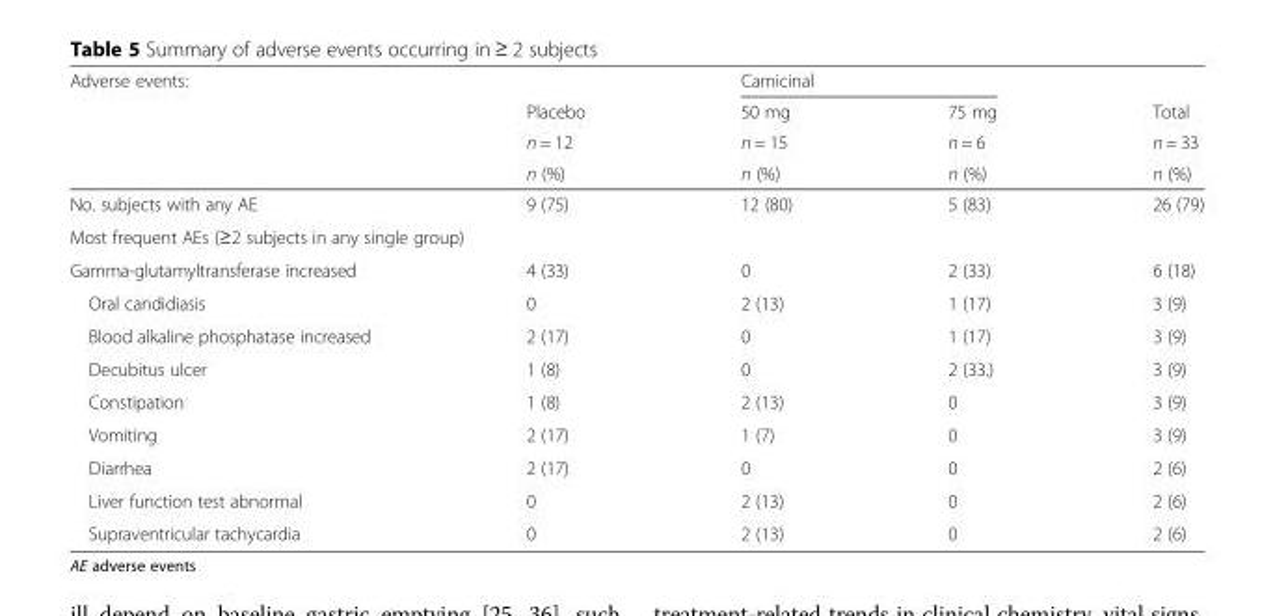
<table><thead><tr><td rowspan="4">Adverse events:</td><td rowspan="4">Placebo n = 12 n (%)</td><td colspan="2">Camicinal</td><td rowspan="4">Total n = 33 n (%)</td></tr><tr><td rowspan="3">50 mg n = 15 n (%)</td><td rowspan="3">75 mg n = 6 n (%)</td></tr><tr></tr><tr></tr></thead><tbody><tr><td>No. subjects with any AE</td><td>9 (75)</td><td>12 (80)</td><td>5 (83)</td><td>26 (79)</td></tr><tr><td colspan="5">Most frequent AEs (≥2 subjects in any single group)</td></tr><tr><td>Gamma-glutamyltransferase increased</td><td>4 (33)</td><td>0</td><td>2 (33)</td><td>6 (18)</td></tr><tr><td>Oral candidiasis</td><td>0</td><td>2 (13)</td><td>1 (17)</td><td>3 (9)</td></tr><tr><td>Blood alkaline phosphatase increased</td><td>2 (17)</td><td>0</td><td>1 (17)</td><td>3 (9)</td></tr><tr><td>Decubitus ulcer</td><td>1 (8)</td><td>0</td><td>2 (33.)</td><td>3 (9)</td></tr><tr><td>Constipation</td><td>1 (8)</td><td>2 (13)</td><td>0</td><td>3 (9)</td></tr><tr><td>Vomiting</td><td>2 (17)</td><td>1 (7)</td><td>0</td><td>3 (9)</td></tr><tr><td>Diarrhea</td><td>2 (17)</td><td>0</td><td>0</td><td>2 (6)</td></tr><tr><td>Liver function test abnormal</td><td>0</td><td>2 (13)</td><td>0</td><td>2 (6)</td></tr><tr><td>Supraventricular tachycardia</td><td>0</td><td>2 (13)</td><td>0</td><td>2 (6)</td></tr></tbody></table>